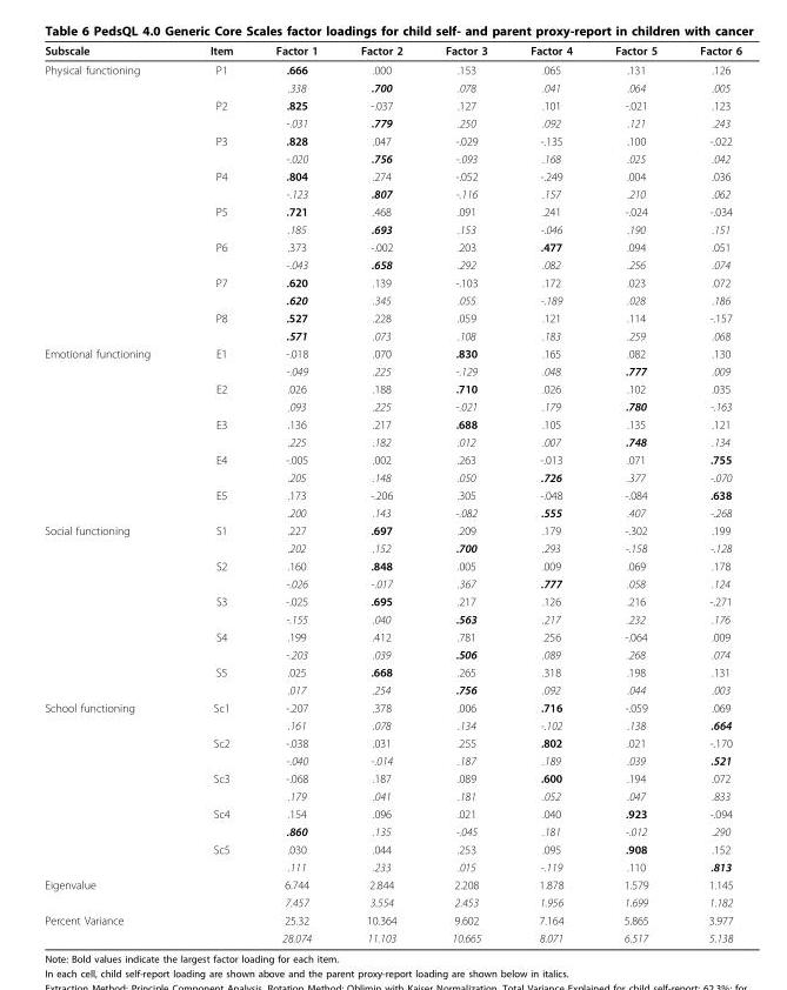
<table><thead><tr><td>Subscale</td><td>Item</td><td>Factor 1</td><td>Factor 2</td><td>Factor 3</td><td>Factor 4</td><td>Factor 5</td><td>Factor 6</td></tr></thead><tbody><tr><td rowspan="16">Physical functioning</td><td>P1</td><td>.666</td><td>.000</td><td>.153</td><td>.065</td><td>.131</td><td>.126</td></tr><tr><td></td><td>.338</td><td>.700</td><td>.078</td><td>.041</td><td>.064</td><td>.005</td></tr><tr><td>P2</td><td>.825</td><td>-.037</td><td>.127</td><td>.101</td><td>-.021</td><td>.123</td></tr><tr><td></td><td>-.031</td><td>.779</td><td>.250</td><td>.092</td><td>.121</td><td>.243</td></tr><tr><td>P3</td><td>.828</td><td>.047</td><td>-.029</td><td>-.135</td><td>.100</td><td>-.022</td></tr><tr><td></td><td>-.020</td><td>.756</td><td>-.093</td><td>.168</td><td>.025</td><td>.042</td></tr><tr><td>P4</td><td>.804</td><td>.274</td><td>-.052</td><td>-.249</td><td>.004</td><td>.036</td></tr><tr><td></td><td>-.123</td><td>.807</td><td>-.116</td><td>.157</td><td>.210</td><td>.062</td></tr><tr><td>P5</td><td>.721</td><td>.468</td><td>.091</td><td>.241</td><td>-.024</td><td>-.034</td></tr><tr><td></td><td>.185</td><td>.693</td><td>.153</td><td>-.046</td><td>.190</td><td>.151</td></tr><tr><td>P6</td><td>.373</td><td>-.002</td><td>.203</td><td>.477</td><td>.094</td><td>.051</td></tr><tr><td></td><td>-.043</td><td>.658</td><td>.292</td><td>.082</td><td>.256</td><td>.074</td></tr><tr><td>P7</td><td>.620</td><td>.139</td><td>-.103</td><td>.172</td><td>.023</td><td>.072</td></tr><tr><td></td><td>.620</td><td>.345</td><td>.055</td><td>-.189</td><td>.028</td><td>.186</td></tr><tr><td>P8</td><td>.527</td><td>.228</td><td>.059</td><td>.121</td><td>.114</td><td>-.157</td></tr><tr><td></td><td>.571</td><td>.073</td><td>.108</td><td>.183</td><td>.259</td><td>.068</td></tr><tr><td rowspan="10">Emotional functioning</td><td>E1</td><td>-.018</td><td>.070</td><td>.830</td><td>.165</td><td>.082</td><td>.130</td></tr><tr><td></td><td>-.049</td><td>.225</td><td>-.129</td><td>.048</td><td>.777</td><td>.009</td></tr><tr><td>E2</td><td>.026</td><td>.188</td><td>.710</td><td>.026</td><td>.102</td><td>.035</td></tr><tr><td></td><td>.093</td><td>.225</td><td>-.021</td><td>.179</td><td>.780</td><td>-.163</td></tr><tr><td>E3</td><td>.136</td><td>.217</td><td>.688</td><td>.105</td><td>.135</td><td>.121</td></tr><tr><td></td><td>.225</td><td>.182</td><td>.012</td><td>.007</td><td>.748</td><td>.134</td></tr><tr><td>E4</td><td>-.005</td><td>.002</td><td>.263</td><td>-.013</td><td>.071</td><td>.755</td></tr><tr><td></td><td>.205</td><td>.148</td><td>.050</td><td>.726</td><td>.377</td><td>-.070</td></tr><tr><td>E5</td><td>.173</td><td>-.206</td><td>.305</td><td>-.048</td><td>-.084</td><td>.638</td></tr><tr><td></td><td>.200</td><td>.143</td><td>-.082</td><td>.555</td><td>.407</td><td>-.268</td></tr><tr><td rowspan="10">Social functioning</td><td>S1</td><td>.227</td><td>.697</td><td>.209</td><td>.179</td><td>-.302</td><td>.199</td></tr><tr><td></td><td>.202</td><td>.152</td><td>.700</td><td>.293</td><td>-.158</td><td>-.128</td></tr><tr><td>S2</td><td>.160</td><td>.848</td><td>.005</td><td>.009</td><td>.069</td><td>.178</td></tr><tr><td></td><td>-.026</td><td>-.017</td><td>.367</td><td>.777</td><td>.058</td><td>.124</td></tr><tr><td>S3</td><td>-.025</td><td>.695</td><td>.217</td><td>.126</td><td>.216</td><td>-.271</td></tr><tr><td></td><td>-.155</td><td>.040</td><td>.563</td><td>.217</td><td>.232</td><td>.176</td></tr><tr><td>S4</td><td>.199</td><td>.412</td><td>.781</td><td>.256</td><td>-.064</td><td>.009</td></tr><tr><td></td><td>-.203</td><td>.039</td><td>.506</td><td>.089</td><td>.268</td><td>.074</td></tr><tr><td>S5</td><td>.025</td><td>.668</td><td>.265</td><td>.318</td><td>.198</td><td>.131</td></tr><tr><td></td><td>.017</td><td>.254</td><td>.756</td><td>.092</td><td>.044</td><td>.003</td></tr><tr><td rowspan="10">School functioning</td><td>Sc1</td><td>-.207</td><td>.378</td><td>.006</td><td>.716</td><td>-.059</td><td>.069</td></tr><tr><td></td><td>.161</td><td>.078</td><td>.134</td><td>-.102</td><td>.138</td><td>.664</td></tr><tr><td>Sc2</td><td>-.038</td><td>.031</td><td>.255</td><td>.802</td><td>.021</td><td>-.170</td></tr><tr><td></td><td>-.040</td><td>-.014</td><td>.187</td><td>.189</td><td>.039</td><td>.521</td></tr><tr><td>Sc3</td><td>-.068</td><td>.187</td><td>.089</td><td>.600</td><td>.194</td><td>.072</td></tr><tr><td></td><td>.179</td><td>.041</td><td>.181</td><td>.052</td><td>.047</td><td>.833</td></tr><tr><td>Sc4</td><td>.154</td><td>.096</td><td>.021</td><td>.040</td><td>.923</td><td>-.094</td></tr><tr><td></td><td>.860</td><td>.135</td><td>-.045</td><td>.181</td><td>-.012</td><td>.290</td></tr><tr><td>Sc5</td><td>.030</td><td>.044</td><td>.253</td><td>.095</td><td>.908</td><td>.152</td></tr><tr><td></td><td>.111</td><td>.233</td><td>.015</td><td>-.119</td><td>.110</td><td>.813</td></tr><tr><td rowspan="2">Eigenvalue</td><td></td><td>6.744</td><td>2.844</td><td>2.208</td><td>1.878</td><td>1.579</td><td>1.145</td></tr><tr><td></td><td>7.457</td><td>3.554</td><td>2.453</td><td>1.956</td><td>1.699</td><td>1.182</td></tr><tr><td rowspan="2">Percent Variance</td><td></td><td>25.32</td><td>10.364</td><td>9.602</td><td>7.164</td><td>5.865</td><td>3.977</td></tr><tr><td></td><td>28.074</td><td>11.103</td><td>10.665</td><td>8.071</td><td>6.517</td><td>5.138</td></tr></tbody></table>